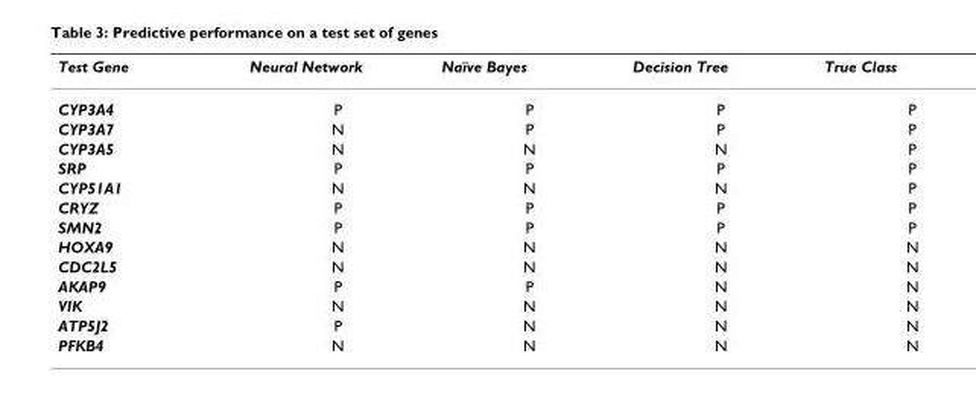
<table><thead><tr><td>Test Gene</td><td>Neural Network</td><td>Naïve Bayes</td><td>Decision Tree</td><td>True Class</td></tr></thead><tbody><tr><td>CYP3A4</td><td>P</td><td>P</td><td>P</td><td>P</td></tr><tr><td>CYP3A7</td><td>N</td><td>P</td><td>P</td><td>P</td></tr><tr><td>CYP3A5</td><td>N</td><td>N</td><td>N</td><td>P</td></tr><tr><td>SRP</td><td>P</td><td>P</td><td>P</td><td>P</td></tr><tr><td>CYP51A1</td><td>N</td><td>N</td><td>N</td><td>P</td></tr><tr><td>CRYZ</td><td>P</td><td>P</td><td>P</td><td>P</td></tr><tr><td>SMN2</td><td>P</td><td>P</td><td>P</td><td>P</td></tr><tr><td>HOXA9</td><td>N</td><td>N</td><td>N</td><td>N</td></tr><tr><td>CDC2L5</td><td>N</td><td>N</td><td>N</td><td>N</td></tr><tr><td>AKAP9</td><td>P</td><td>P</td><td>N</td><td>N</td></tr><tr><td>VIK</td><td>N</td><td>N</td><td>N</td><td>N</td></tr><tr><td>ATP5J2</td><td>P</td><td>N</td><td>N</td><td>N</td></tr><tr><td>PFKB4</td><td>N</td><td>N</td><td>N</td><td>N</td></tr></tbody></table>